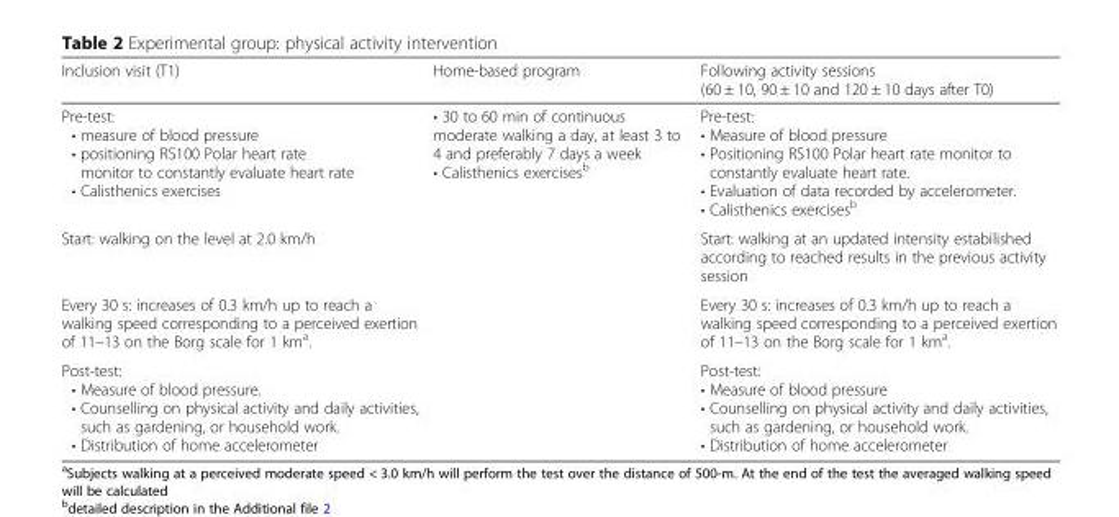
<table><thead><tr><td>Inclusion visit (T1)</td><td>Home-based program</td><td>Following activity sessions (60 ± 10, 90 ± 10 and 120 ± 10 days after T0)</td></tr></thead><tbody><tr><td>Pre-test: • measure of blood pressure • positioning RS100 Polar heart rate monitor to constantly evaluate heart rate • Calisthenics exercises</td><td>• 30 to 60 min of continuous moderate walking a day, at least 3 to 4 and preferably 7 days a week • Calisthenics exercises<sup>b</sup></td><td>Pre-test: • Measure of blood pressure • Positioning RS100 Polar heart rate monitor to constantly evaluate heart rate. • Evaluation of data recorded by accelerometer. • Calisthenics exercises<sup>b</sup></td></tr><tr><td>Start: walking on the level at 2.0 km/h</td><td></td><td>Start: walking at an updated intensity estabilished according to reached results in the previous activity session</td></tr><tr><td>Every 30 s: increases of 0.3 km/h up to reach a walking speed corresponding to a perceived exertion of 11–13 on the Borg scale for 1 km<sup>a</sup>.</td><td></td><td>Every 30 s: increases of 0.3 km/h up to reach a walking speed corresponding to a perceived exertion of 11–13 on the Borg scale for 1 km<sup>a</sup>.</td></tr><tr><td>Post-test: • Measure of blood pressure. • Counselling on physical activity and daily activities, such as gardening, or household work. • Distribution of home accelerometer</td><td></td><td>Post-test: • Measure of blood pressure • Counselling on physical activity and daily activities, such as gardening, or household work. • Distribution of home accelerometer</td></tr></tbody></table>